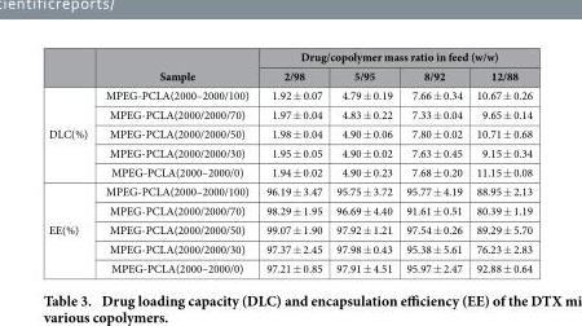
<table><thead><tr><td rowspan="2"></td><td rowspan="2">Sample</td><td colspan="4">Drug/copolymer mass ratio in feed (w/w)</td></tr><tr><td>2/98</td><td>5/95</td><td>8/92</td><td>12/88</td></tr></thead><tbody><tr><td rowspan="5">DLC(%)</td><td>MPEG-PCLA(2000–2000/100)</td><td>1.92 ± 0.07</td><td>4.79 ± 0.19</td><td>7.66 ± 0.34</td><td>10.67 ± 0.26</td></tr><tr><td>MPEG-PCLA(2000/2000/70)</td><td>1.97 ± 0.04</td><td>4.83 ± 0.22</td><td>7.33 ± 0.04</td><td>9.65 ± 0.14</td></tr><tr><td>MPEG-PCLA(2000/2000/50)</td><td>1.98 ± 0.04</td><td>4.90 ± 0.06</td><td>7.80 ± 0.02</td><td>10.71 ± 0.68</td></tr><tr><td>MPEG-PCLA(2000/2000/30)</td><td>1.95 ± 0.05</td><td>4.90 ± 0.02</td><td>7.63 ± 0.45</td><td>9.15 ± 0.34</td></tr><tr><td>MPEG-PCLA(2000–2000/0)</td><td>1.94 ± 0.02</td><td>4.90 ± 0.23</td><td>7.68 ± 0.20</td><td>11.15 ± 0.08</td></tr><tr><td rowspan="5">EE(%)</td><td>MPEG-PCLA(2000–2000/100)</td><td>96.19 ± 3.47</td><td>95.75 ± 3.72</td><td>95.77 ± 4.19</td><td>88.95 ± 2.13</td></tr><tr><td>MPEG-PCLA(2000/2000/70)</td><td>98.29 ± 1.95</td><td>96.69 ± 4.40</td><td>91.61 ± 0.51</td><td>80.39 ± 1.19</td></tr><tr><td>MPEG-PCLA(2000/2000/50)</td><td>99.07 ± 1.90</td><td>97.92 ± 1.21</td><td>97.54 ± 0.26</td><td>89.29 ± 5.70</td></tr><tr><td>MPEG-PCLA(2000/2000/30)</td><td>97.37 ± 2.45</td><td>97.98 ± 0.43</td><td>95.38 ± 5.61</td><td>76.23 ± 2.83</td></tr><tr><td>MPEG-PCLA(2000–2000/0)</td><td>97.21 ± 0.85</td><td>97.91 ± 4.51</td><td>95.97 ± 2.47</td><td>92.88 ± 0.64</td></tr></tbody></table>